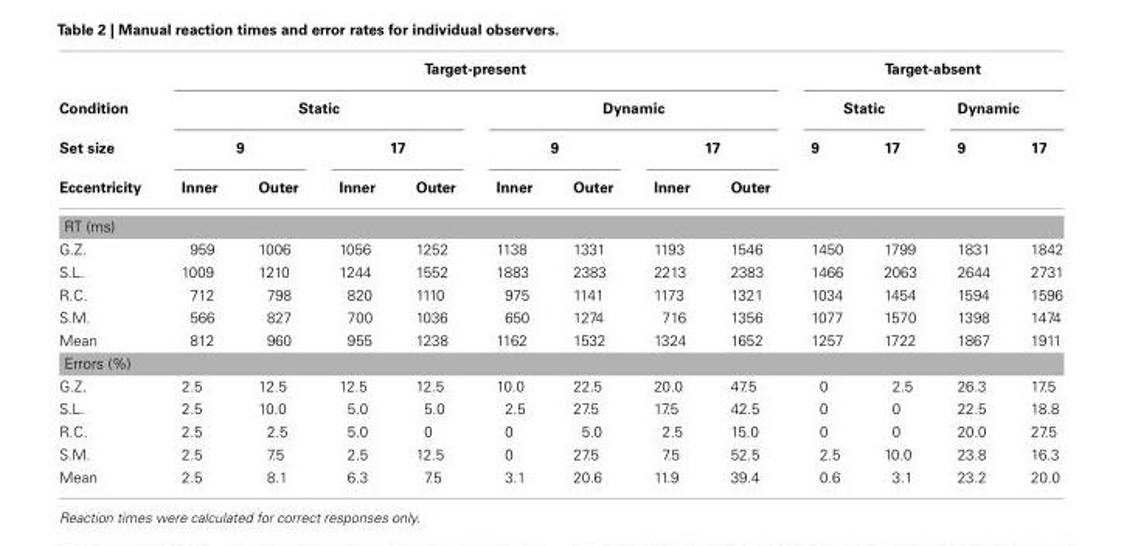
<table><thead><tr><td rowspan="4">Condition Set size Eccentricity</td><td colspan="8">Target-present</td><td colspan="4">Target-absent</td></tr><tr><td colspan="4">Static</td><td colspan="4">Dynamic</td><td colspan="2">Static</td><td colspan="2">Dynamic</td></tr><tr><td colspan="2">9</td><td colspan="2">17</td><td colspan="2">9</td><td colspan="2">17</td><td rowspan="2">9</td><td rowspan="2">17</td><td rowspan="2">9</td><td rowspan="2">17</td></tr><tr><td>Inner</td><td>Outer</td><td>Inner</td><td>Outer</td><td>Inner</td><td>Outer</td><td>Inner</td><td>Outer</td></tr></thead><tbody><tr><td colspan="13">RT (ms)</td></tr><tr><td>G.Z.</td><td>959</td><td>1006</td><td>1056</td><td>1252</td><td>1138</td><td>1331</td><td>1193</td><td>1546</td><td>1450</td><td>1799</td><td>1831</td><td>1842</td></tr><tr><td>S.L.</td><td>1009</td><td>1210</td><td>1244</td><td>1552</td><td>1883</td><td>2383</td><td>2213</td><td>2383</td><td>1466</td><td>2063</td><td>2644</td><td>2731</td></tr><tr><td>R.C.</td><td>712</td><td>798</td><td>820</td><td>1110</td><td>975</td><td>1141</td><td>1173</td><td>1321</td><td>1034</td><td>1454</td><td>1594</td><td>1596</td></tr><tr><td>S.M.</td><td>566</td><td>827</td><td>700</td><td>1036</td><td>650</td><td>1274</td><td>716</td><td>1356</td><td>1077</td><td>1570</td><td>1398</td><td>1474</td></tr><tr><td>Mean</td><td>812</td><td>960</td><td>955</td><td>1238</td><td>1162</td><td>1532</td><td>1324</td><td>1652</td><td>1257</td><td>1722</td><td>1867</td><td>1911</td></tr><tr><td colspan="13">Errors (%)</td></tr><tr><td>G.Z.</td><td>2.5</td><td>12.5</td><td>12.5</td><td>12.5</td><td>10.0</td><td>22.5</td><td>20.0</td><td>47.5</td><td>0</td><td>2.5</td><td>26.3</td><td>17.5</td></tr><tr><td>S.L.</td><td>2.5</td><td>10.0</td><td>5.0</td><td>5.0</td><td>2.5</td><td>27.5</td><td>17.5</td><td>42.5</td><td>0</td><td>0</td><td>22.5</td><td>18.8</td></tr><tr><td>R.C.</td><td>2.5</td><td>2.5</td><td>5.0</td><td>0</td><td>0</td><td>5.0</td><td>2.5</td><td>15.0</td><td>0</td><td>0</td><td>20.0</td><td>27.5</td></tr><tr><td>S.M.</td><td>2.5</td><td>7.5</td><td>2.5</td><td>12.5</td><td>0</td><td>27.5</td><td>7.5</td><td>52.5</td><td>2.5</td><td>10.0</td><td>23.8</td><td>16.3</td></tr><tr><td>Mean</td><td>2.5</td><td>8.1</td><td>6.3</td><td>7.5</td><td>3.1</td><td>20.6</td><td>11.9</td><td>39.4</td><td>0.6</td><td>3.1</td><td>23.2</td><td>20.0</td></tr></tbody></table>